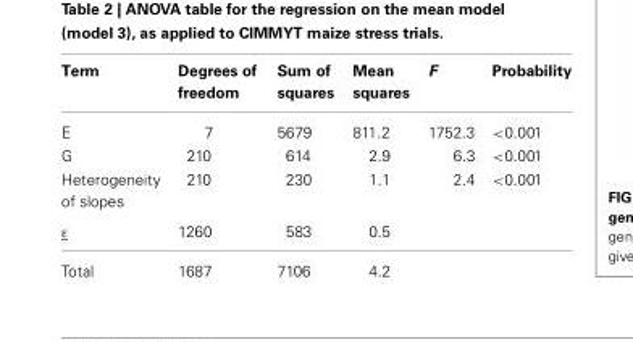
<table><thead><tr><td>Term</td><td>Degrees of freedom</td><td>Sum of squares</td><td>Mean squares</td><td>F</td><td>Probability</td></tr></thead><tbody><tr><td>E</td><td>7</td><td>5679</td><td>811.2</td><td>1752.3</td><td>&lt;0.001</td></tr><tr><td>G</td><td>210</td><td>614</td><td>2.9</td><td>6.3</td><td>&lt;0.001</td></tr><tr><td>Heterogeneity of slopes</td><td>210</td><td>230</td><td>1.1</td><td>2.4</td><td>&lt;0.001</td></tr><tr><td>ε</td><td>1260</td><td>583</td><td>0.5</td><td></td><td></td></tr><tr><td>Total</td><td>1687</td><td>7106</td><td>4.2</td><td></td><td></td></tr></tbody></table>